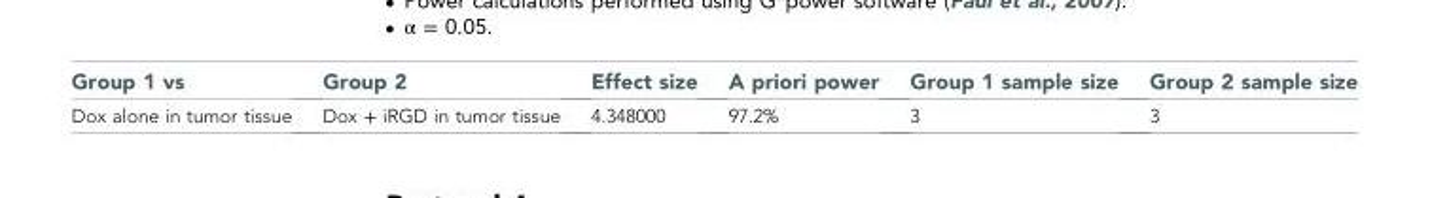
<table><thead><tr><td>Group 1 vs</td><td>Group 2</td><td>Effect size</td><td>A priori power</td><td>Group 1 sample size</td><td>Group 2 sample size</td></tr></thead><tbody><tr><td>Dox alone in tumor tissue</td><td>Dox + iRGD in tumor tissue</td><td>4.348000</td><td>97.2%</td><td>3</td><td>3</td></tr></tbody></table>